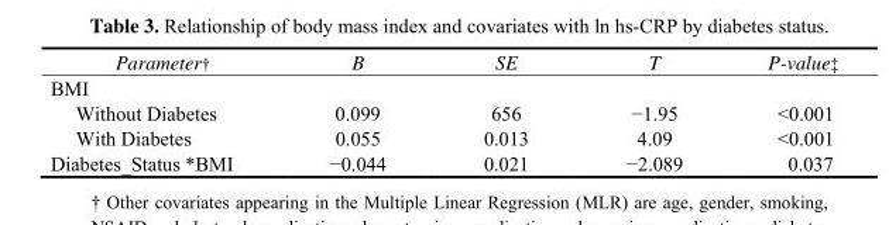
<table><thead><tr><td>Parameter†</td><td>B</td><td>SE</td><td>T</td><td>P-value‡</td></tr></thead><tbody><tr><td colspan="5">BMI</td></tr><tr><td>Without Diabetes</td><td>0.099</td><td>656</td><td>−1.95</td><td>&lt;0.001</td></tr><tr><td>With Diabetes</td><td>0.055</td><td>0.013</td><td>4.09</td><td>&lt;0.001</td></tr><tr><td>Diabetes_Status *BMI</td><td>−0.044</td><td>0.021</td><td>−2.089</td><td>0.037</td></tr></tbody></table>